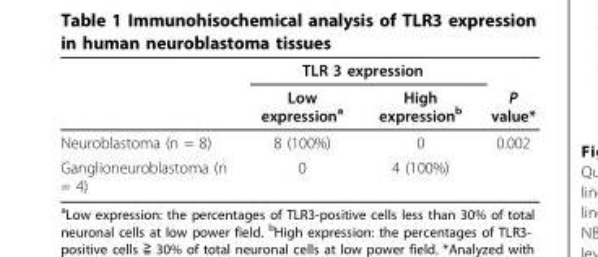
<table><thead><tr><td rowspan="2"></td><td colspan="2">TLR 3 expression</td><td rowspan="2">P value*</td></tr><tr><td>Low expression<sup>a</sup></td><td>High expression<sup>b</sup></td></tr></thead><tbody><tr><td>Neuroblastoma (n = 8)</td><td>8 (100%)</td><td>0</td><td>0.002</td></tr><tr><td>Ganglioneuroblastoma (n = 4)</td><td>0</td><td>4 (100%)</td><td></td></tr></tbody></table>